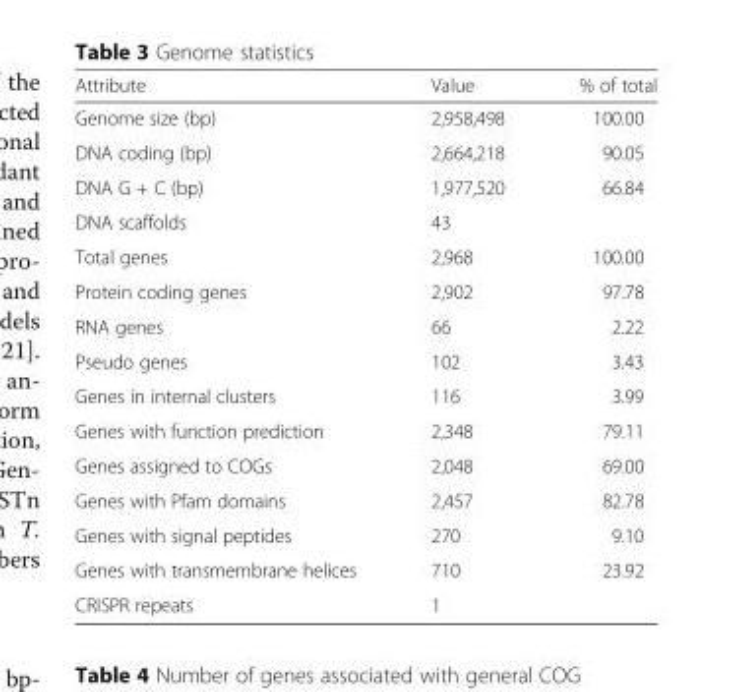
<table><thead><tr><td>Attribute</td><td>Value</td><td>% of total</td></tr></thead><tbody><tr><td>Genome size (bp)</td><td>2,958,498</td><td>100.00</td></tr><tr><td>DNA coding (bp)</td><td>2,664,218</td><td>90.05</td></tr><tr><td>DNA G + C (bp)</td><td>1,977,520</td><td>66.84</td></tr><tr><td>DNA scaffolds</td><td>43</td><td></td></tr><tr><td>Total genes</td><td>2,968</td><td>100.00</td></tr><tr><td>Protein coding genes</td><td>2,902</td><td>97.78</td></tr><tr><td>RNA genes</td><td>66</td><td>2.22</td></tr><tr><td>Pseudo genes</td><td>102</td><td>3.43</td></tr><tr><td>Genes in internal clusters</td><td>116</td><td>3.99</td></tr><tr><td>Genes with function prediction</td><td>2,348</td><td>79.11</td></tr><tr><td>Genes assigned to COGs</td><td>2,048</td><td>69.00</td></tr><tr><td>Genes with Pfam domains</td><td>2,457</td><td>82.78</td></tr><tr><td>Genes with signal peptides</td><td>270</td><td>9.10</td></tr><tr><td>Genes with transmembrane helices</td><td>710</td><td>23.92</td></tr><tr><td>CRISPR repeats</td><td>1</td><td></td></tr></tbody></table>